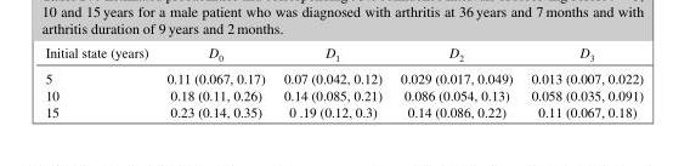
<table><thead><tr><td>Initial state (years)</td><td>D<sub>0</sub></td><td>D<sub>1</sub></td><td>D<sub>2</sub></td><td>D<sub>3</sub></td></tr></thead><tbody><tr><td>5</td><td>0.11 (0.067, 0.17)</td><td>0.07 (0.042, 0.12)</td><td>0.029 (0.017, 0.049)</td><td>0.013 (0.007, 0.022)</td></tr><tr><td>10</td><td>0.18 (0.11, 0.26)</td><td>0.14 (0.085, 0.21)</td><td>0.086 (0.054, 0.13)</td><td>0.058 (0.035, 0.091)</td></tr><tr><td>15</td><td>0.23 (0.14, 0.35)</td><td>0 .19 (0.12, 0.3)</td><td>0.14 (0.086, 0.22)</td><td>0.11 (0.067, 0.18)</td></tr></tbody></table>